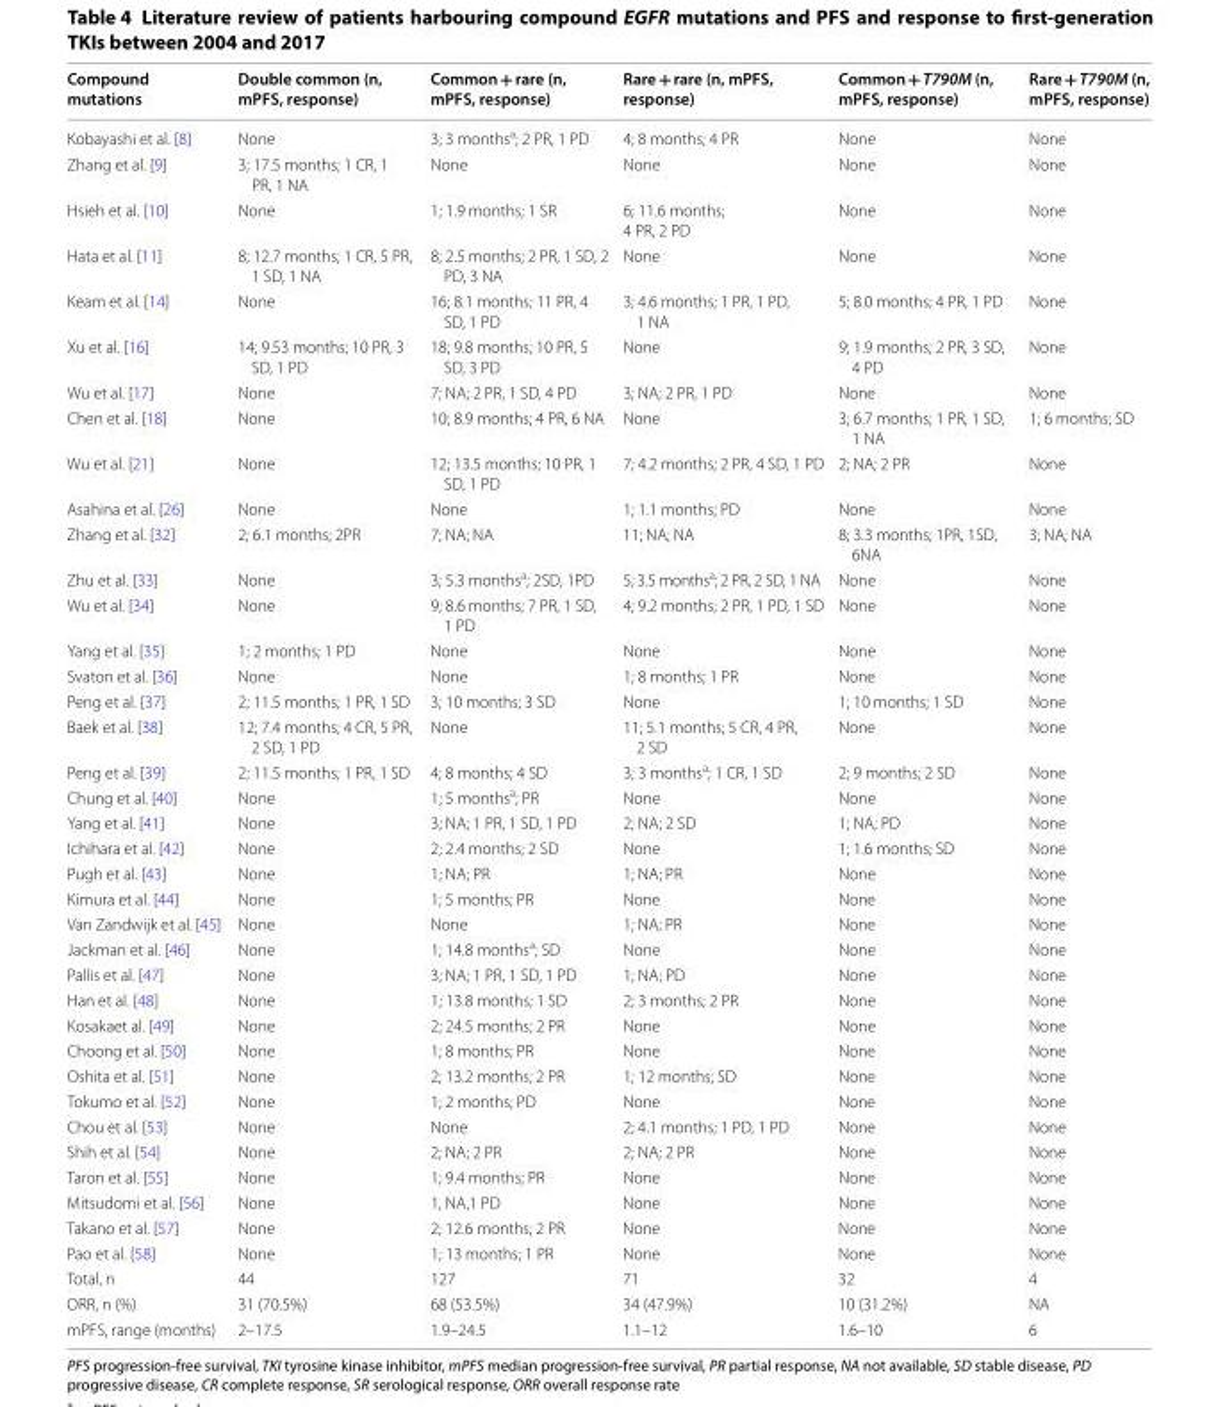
<table><thead><tr><td>Compound mutations</td><td>Double common (n, mPFS, response)</td><td>Common + rare (n, mPFS, response)</td><td>Rare + rare (n, mPFS, response)</td><td>Common + T790M (n, mPFS, response)</td><td>Rare + T790M (n, mPFS, response)</td></tr></thead><tbody><tr><td>Kobayashi et al. [8]</td><td>None</td><td>3; 3 months<sup>a</sup>; 2 PR, 1 PD</td><td>4; 8 months; 4 PR</td><td>None</td><td>None</td></tr><tr><td>Zhang et al. [9]</td><td>3; 17.5 months; 1 CR, 1 PR, 1 NA</td><td>None</td><td>None</td><td>None</td><td>None</td></tr><tr><td>Hsieh et al. [10]</td><td>None</td><td>1; 1.9 months; 1 SR</td><td>6; 11.6 months; 4 PR, 2 PD</td><td>None</td><td>None</td></tr><tr><td>Hata et al. [11]</td><td>8; 12.7 months; 1 CR, 5 PR, 1 SD, 1 NA</td><td>8; 2.5 months; 2 PR, 1 SD, 2 PD, 3 NA</td><td>None</td><td>None</td><td>None</td></tr><tr><td>Keam et al. [14]</td><td>None</td><td>16; 8.1 months; 11 PR, 4 SD, 1 PD</td><td>3; 4.6 months; 1 PR, 1 PD, 1 NA</td><td>5; 8.0 months; 4 PR, 1 PD</td><td>None</td></tr><tr><td>Xu et al. [16]</td><td>14; 9.53 months; 10 PR, 3 SD, 1 PD</td><td>18; 9.8 months; 10 PR, 5 SD, 3 PD</td><td>None</td><td>9; 1.9 months; 2 PR, 3 SD, 4 PD</td><td>None</td></tr><tr><td>Wu et al. [17]</td><td>None</td><td>7; NA; 2 PR, 1 SD, 4 PD</td><td>3; NA; 2 PR, 1 PD</td><td>None</td><td>None</td></tr><tr><td>Chen et al. [18]</td><td>None</td><td>10; 8.9 months; 4 PR, 6 NA</td><td>None</td><td>3; 6.7 months; 1 PR, 1 SD, 1 NA</td><td>1; 6 months; SD</td></tr><tr><td>Wu et al. [21]</td><td>None</td><td>12; 13.5 months; 10 PR, 1 SD, 1 PD</td><td>7; 4.2 months; 2 PR, 4 SD, 1 PD</td><td>2; NA; 2 PR</td><td>None</td></tr><tr><td>Asahina et al. [26]</td><td>None</td><td>None</td><td>1; 1.1 months; PD</td><td>None</td><td>None</td></tr><tr><td>Zhang et al. [32]</td><td>2; 6.1 months; 2PR</td><td>7; NA; NA</td><td>11; NA; NA</td><td>8; 3.3 months; 1PR, 1SD, 6NA</td><td>3; NA; NA</td></tr><tr><td>Zhu et al. [33]</td><td>None</td><td>3; 5.3 months<sup>a</sup>; 2SD, 1PD</td><td>5; 3.5 months<sup>a</sup>; 2 PR, 2 SD, 1 NA</td><td>None</td><td>None</td></tr><tr><td>Wu et al. [34]</td><td>None</td><td>9; 8.6 months; 7 PR, 1 SD, 1 PD</td><td>4; 9.2 months; 2 PR, 1 PD, 1 SD</td><td>None</td><td>None</td></tr><tr><td>Yang et al. [35]</td><td>1; 2 months; 1 PD</td><td>None</td><td>None</td><td>None</td><td>None</td></tr><tr><td>Svaton et al. [36]</td><td>None</td><td>None</td><td>1; 8 months; 1 PR</td><td>None</td><td>None</td></tr><tr><td>Peng et al. [37]</td><td>2; 11.5 months; 1 PR, 1 SD</td><td>3; 10 months; 3 SD</td><td>None</td><td>1; 10 months; 1 SD</td><td>None</td></tr><tr><td>Baek et al. [38]</td><td>12; 7.4 months; 4 CR, 5 PR, 2 SD, 1 PD</td><td>None</td><td>11; 5.1 months; 5 CR, 4 PR, 2 SD</td><td>None</td><td>None</td></tr><tr><td>Peng et al. [39]</td><td>2; 11.5 months; 1 PR, 1 SD</td><td>4; 8 months; 4 SD</td><td>3; 3 months<sup>a</sup>; 1 CR, 1 SD</td><td>2; 9 months; 2 SD</td><td>None</td></tr><tr><td>Chung et al. [40]</td><td>None</td><td>1; 5 months<sup>a</sup>; PR</td><td>None</td><td>None</td><td>None</td></tr><tr><td>Yang et al. [41]</td><td>None</td><td>3; NA; 1 PR, 1 SD, 1 PD</td><td>2; NA; 2 SD</td><td>1; NA; PD</td><td>None</td></tr><tr><td>Ichihara et al. [42]</td><td>None</td><td>2; 2.4 months; 2 SD</td><td>None</td><td>1; 1.6 months; SD</td><td>None</td></tr><tr><td>Pugh et al. [43]</td><td>None</td><td>1; NA; PR</td><td>1; NA; PR</td><td>None</td><td>None</td></tr><tr><td>Kimura et al. [44]</td><td>None</td><td>1; 5 months; PR</td><td>None</td><td>None</td><td>None</td></tr><tr><td>Van Zandwijk et al. [45]</td><td>None</td><td>None</td><td>1; NA; PR</td><td>None</td><td>None</td></tr><tr><td>Jackman et al. [46]</td><td>None</td><td>1; 14.8 months<sup>a</sup>; SD</td><td>None</td><td>None</td><td>None</td></tr><tr><td>Pallis et al. [47]</td><td>None</td><td>3; NA; 1 PR, 1 SD, 1 PD</td><td>1; NA; PD</td><td>None</td><td>None</td></tr><tr><td>Han et al. [48]</td><td>None</td><td>1; 13.8 months; 1 SD</td><td>2; 3 months; 2 PR</td><td>None</td><td>None</td></tr><tr><td>Kosakaet al. [49]</td><td>None</td><td>2; 24.5 months; 2 PR</td><td>None</td><td>None</td><td>None</td></tr><tr><td>Choong et al. [50]</td><td>None</td><td>1; 8 months; PR</td><td>None</td><td>None</td><td>None</td></tr><tr><td>Oshita et al. [51]</td><td>None</td><td>2; 13.2 months; 2 PR</td><td>1; 12 months; SD</td><td>None</td><td>None</td></tr><tr><td>Tokumo et al. [52]</td><td>None</td><td>1; 2 months; PD</td><td>None</td><td>None</td><td>None</td></tr><tr><td>Chou et al. [53]</td><td>None</td><td>None</td><td>2; 4.1 months; 1 PD, 1 PD</td><td>None</td><td>None</td></tr><tr><td>Shih et al. [54]</td><td>None</td><td>2; NA; 2 PR</td><td>2; NA; 2 PR</td><td>None</td><td>None</td></tr><tr><td>Taron et al. [55]</td><td>None</td><td>1; 9.4 months; PR</td><td>None</td><td>None</td><td>None</td></tr><tr><td>Mitsudomi et al. [56]</td><td>None</td><td>1, NA,1 PD</td><td>None</td><td>None</td><td>None</td></tr><tr><td>Takano et al. [57]</td><td>None</td><td>2; 12.6 months; 2 PR</td><td>None</td><td>None</td><td>None</td></tr><tr><td>Pao et al. [58]</td><td>None</td><td>1; 13 months; 1 PR</td><td>None</td><td>None</td><td>None</td></tr><tr><td>Total, n</td><td>44</td><td>127</td><td>71</td><td>32</td><td>4</td></tr><tr><td>ORR, n (%)</td><td>31 (70.5%)</td><td>68 (53.5%)</td><td>34 (47.9%)</td><td>10 (31.2%)</td><td>NA</td></tr><tr><td>mPFS, range (months)</td><td>2–17.5</td><td>1.9–24.5</td><td>1.1–12</td><td>1.6–10</td><td>6</td></tr></tbody></table>